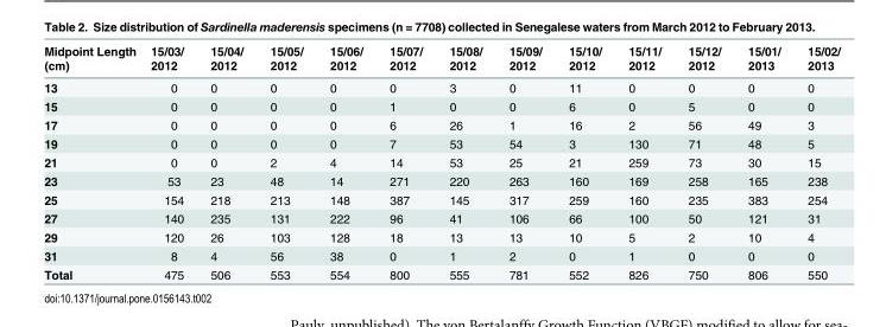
<table><thead><tr><td>Midpoint Length (cm)</td><td>15/03/ 2012</td><td>15/04/ 2012</td><td>15/05/ 2012</td><td>15/06/ 2012</td><td>15/07/ 2012</td><td>15/08/ 2012</td><td>15/09/ 2012</td><td>15/10/ 2012</td><td>15/11/ 2012</td><td>15/12/ 2012</td><td>15/01/ 2013</td><td>15/02/ 2013</td></tr></thead><tbody><tr><td>13</td><td>0</td><td>0</td><td>0</td><td>0</td><td>0</td><td>3</td><td>0</td><td>11</td><td>0</td><td>0</td><td>0</td><td>0</td></tr><tr><td>15</td><td>0</td><td>0</td><td>0</td><td>0</td><td>1</td><td>0</td><td>0</td><td>6</td><td>0</td><td>5</td><td>0</td><td>0</td></tr><tr><td>17</td><td>0</td><td>0</td><td>0</td><td>0</td><td>6</td><td>26</td><td>1</td><td>16</td><td>2</td><td>56</td><td>49</td><td>3</td></tr><tr><td>19</td><td>0</td><td>0</td><td>0</td><td>0</td><td>7</td><td>53</td><td>54</td><td>3</td><td>130</td><td>71</td><td>48</td><td>5</td></tr><tr><td>21</td><td>0</td><td>0</td><td>2</td><td>4</td><td>14</td><td>53</td><td>25</td><td>21</td><td>259</td><td>73</td><td>30</td><td>15</td></tr><tr><td>23</td><td>53</td><td>23</td><td>48</td><td>14</td><td>271</td><td>220</td><td>263</td><td>160</td><td>169</td><td>258</td><td>165</td><td>238</td></tr><tr><td>25</td><td>154</td><td>218</td><td>213</td><td>148</td><td>387</td><td>145</td><td>317</td><td>259</td><td>160</td><td>235</td><td>383</td><td>254</td></tr><tr><td>27</td><td>140</td><td>235</td><td>131</td><td>222</td><td>96</td><td>41</td><td>106</td><td>66</td><td>100</td><td>50</td><td>121</td><td>31</td></tr><tr><td>29</td><td>120</td><td>26</td><td>103</td><td>128</td><td>18</td><td>13</td><td>13</td><td>10</td><td>5</td><td>2</td><td>10</td><td>4</td></tr><tr><td>31</td><td>8</td><td>4</td><td>56</td><td>38</td><td>0</td><td>1</td><td>2</td><td>0</td><td>1</td><td>0</td><td>0</td><td>0</td></tr><tr><td>Total</td><td>475</td><td>506</td><td>553</td><td>554</td><td>800</td><td>555</td><td>781</td><td>552</td><td>826</td><td>750</td><td>806</td><td>550</td></tr></tbody></table>